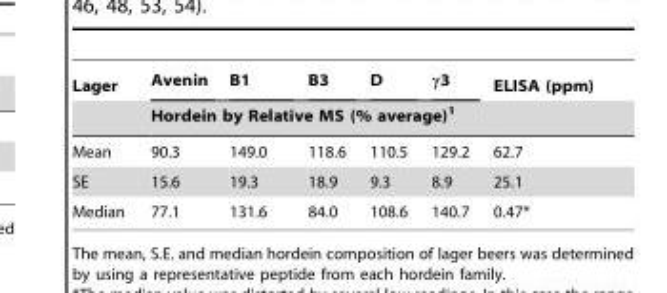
<table><thead><tr><td rowspan="2">Lager</td><td>Avenin</td><td>B1</td><td>B3</td><td>D</td><td>γ3</td><td rowspan="2">ELISA (ppm)</td></tr><tr><td colspan="5">Hordein by Relative MS (% average)<sup>1</sup></td></tr></thead><tbody><tr><td>Mean</td><td>90.3</td><td>149.0</td><td>118.6</td><td>110.5</td><td>129.2</td><td>62.7</td></tr><tr><td>SE</td><td>15.6</td><td>19.3</td><td>18.9</td><td>9.3</td><td>8.9</td><td>25.1</td></tr><tr><td>Median</td><td>77.1</td><td>131.6</td><td>84.0</td><td>108.6</td><td>140.7</td><td>0.47*</td></tr></tbody></table>